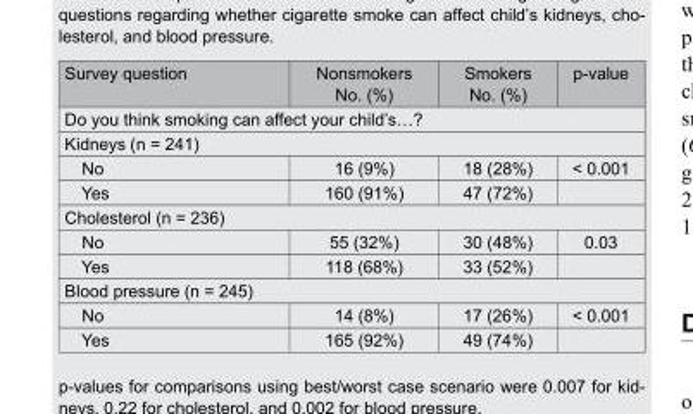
<table><thead><tr><td>Survey question</td><td>Nonsmokers No. (%)</td><td>Smokers No. (%)</td><td>p-value</td></tr></thead><tbody><tr><td colspan="4">Do you think smoking can affect your child’s…?</td></tr><tr><td colspan="4">Kidneys (n = 241)</td></tr><tr><td>No</td><td>16 (9%)</td><td>18 (28%)</td><td>&lt; 0.001</td></tr><tr><td>Yes</td><td>160 (91%)</td><td>47 (72%)</td><td></td></tr><tr><td colspan="4">Cholesterol (n = 236)</td></tr><tr><td>No</td><td>55 (32%)</td><td>30 (48%)</td><td>0.03</td></tr><tr><td>Yes</td><td>118 (68%)</td><td>33 (52%)</td><td></td></tr><tr><td colspan="4">Blood pressure (n = 245)</td></tr><tr><td>No</td><td>14 (8%)</td><td>17 (26%)</td><td>&lt; 0.001</td></tr><tr><td>Yes</td><td>165 (92%)</td><td>49 (74%)</td><td></td></tr></tbody></table>